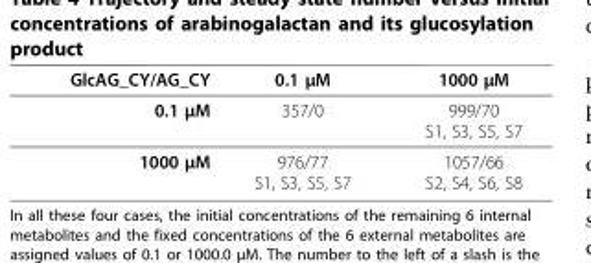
<table><thead><tr><td>GlcAG_CY/AG_CY</td><td>0.1 μM</td><td>1000 μM</td></tr></thead><tbody><tr><td>0.1 μM</td><td>357/0</td><td>999/70 S1, S3, S5, S7</td></tr><tr><td>1000 μM</td><td>976/77 S1, S3, S5, S7</td><td>1057/66 S2, S4, S6, S8</td></tr></tbody></table>